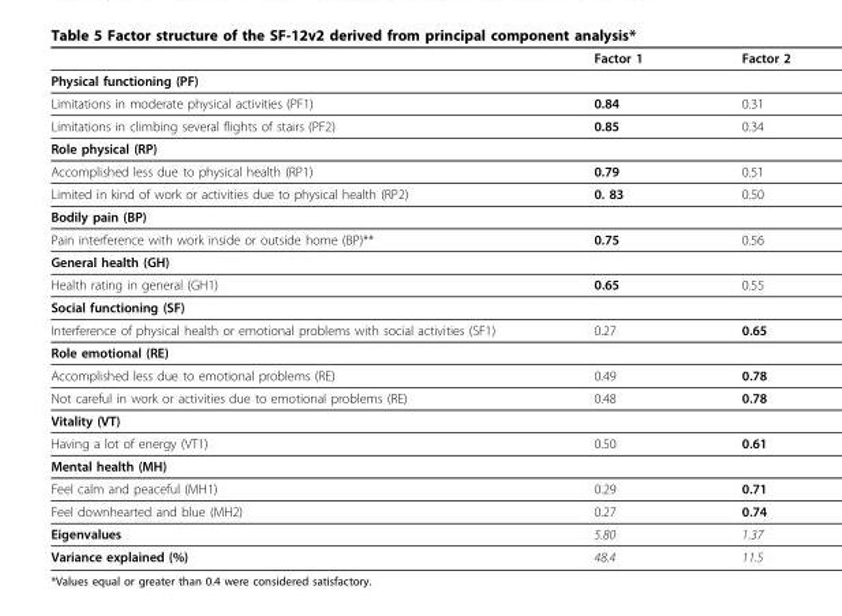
<table><thead><tr><td></td><td>Factor 1</td><td>Factor 2</td></tr></thead><tbody><tr><td colspan="3">Physical functioning (PF)</td></tr><tr><td>Limitations in moderate physical activities (PF1)</td><td>0.84</td><td>0.31</td></tr><tr><td>Limitations in climbing several flights of stairs (PF2)</td><td>0.85</td><td>0.34</td></tr><tr><td colspan="3">Role physical (RP)</td></tr><tr><td>Accomplished less due to physical health (RP1)</td><td>0.79</td><td>0.51</td></tr><tr><td>Limited in kind of work or activities due to physical health (RP2)</td><td>0. 83</td><td>0.50</td></tr><tr><td colspan="3">Bodily pain (BP)</td></tr><tr><td>Pain interference with work inside or outside home (BP)**</td><td>0.75</td><td>0.56</td></tr><tr><td colspan="3">General health (GH)</td></tr><tr><td>Health rating in general (GH1)</td><td>0.65</td><td>0.55</td></tr><tr><td colspan="3">Social functioning (SF)</td></tr><tr><td>Interference of physical health or emotional problems with social activities (SF1)</td><td>0.27</td><td>0.65</td></tr><tr><td colspan="3">Role emotional (RE)</td></tr><tr><td>Accomplished less due to emotional problems (RE)</td><td>0.49</td><td>0.78</td></tr><tr><td>Not careful in work or activities due to emotional problems (RE)</td><td>0.48</td><td>0.78</td></tr><tr><td colspan="3">Vitality (VT)</td></tr><tr><td>Having a lot of energy (VT1)</td><td>0.50</td><td>0.61</td></tr><tr><td colspan="3">Mental health (MH)</td></tr><tr><td>Feel calm and peaceful (MH1)</td><td>0.29</td><td>0.71</td></tr><tr><td>Feel downhearted and blue (MH2)</td><td>0.27</td><td>0.74</td></tr><tr><td>Eigenvalues</td><td>5.80</td><td>1.37</td></tr><tr><td>Variance explained (%)</td><td>48.4</td><td>11.5</td></tr></tbody></table>